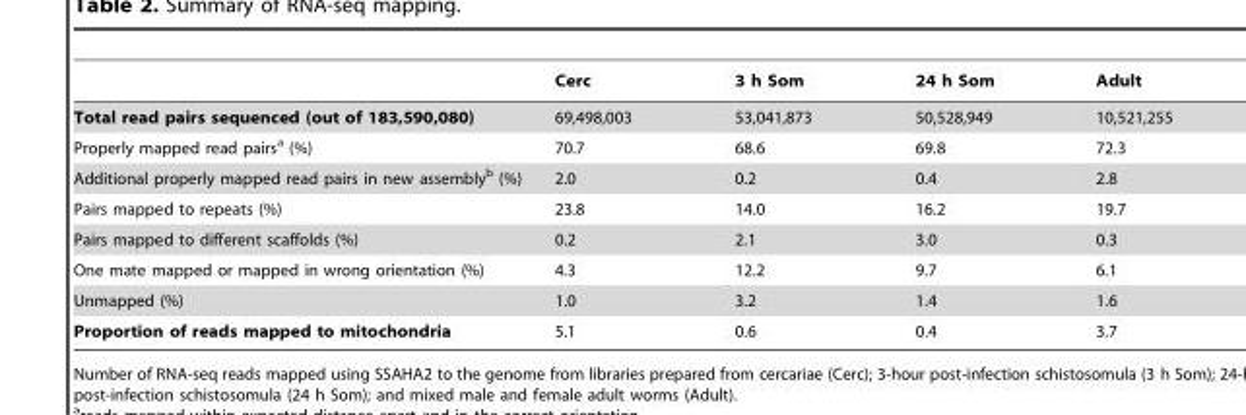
<table><thead><tr><td></td><td>Cerc</td><td>3 h Som</td><td>24 h Som</td><td>Adult</td></tr></thead><tbody><tr><td>Total read pairs sequenced (out of 183,590,080)</td><td>69,498,003</td><td>53,041,873</td><td>50,528,949</td><td>10,521,255</td></tr><tr><td>Properly mapped read pairs<sup>a</sup> (%)</td><td>70.7</td><td>68.6</td><td>69.8</td><td>72.3</td></tr><tr><td>Additional properly mapped read pairs in new assembly<sup>b</sup> (%)</td><td>2.0</td><td>0.2</td><td>0.4</td><td>2.8</td></tr><tr><td>Pairs mapped to repeats (%)</td><td>23.8</td><td>14.0</td><td>16.2</td><td>19.7</td></tr><tr><td>Pairs mapped to different scaffolds (%)</td><td>0.2</td><td>2.1</td><td>3.0</td><td>0.3</td></tr><tr><td>One mate mapped or mapped in wrong orientation (%)</td><td>4.3</td><td>12.2</td><td>9.7</td><td>6.1</td></tr><tr><td>Unmapped (%)</td><td>1.0</td><td>3.2</td><td>1.4</td><td>1.6</td></tr><tr><td>Proportion of reads mapped to mitochondria</td><td>5.1</td><td>0.6</td><td>0.4</td><td>3.7</td></tr></tbody></table>